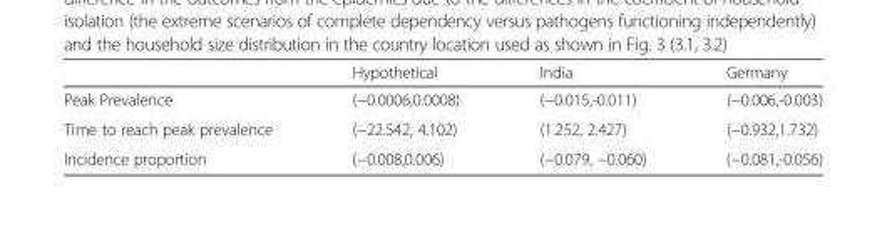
<table><thead><tr><td></td><td>Hypothetical</td><td>India</td><td>Germany</td></tr></thead><tbody><tr><td>Peak Prevalence</td><td>(−0.0006,0.0008)</td><td>(−0.015,-0.011)</td><td>(−0.006,-0.003)</td></tr><tr><td>Time to reach peak prevalence</td><td>(−22.542, 4.102)</td><td>(1.252, 2.427)</td><td>(−0.932,1.732)</td></tr><tr><td>Incidence proportion</td><td>(−0.008,0.006)</td><td>(−0.079, −0.060)</td><td>(−0.081,-0.056)</td></tr></tbody></table>